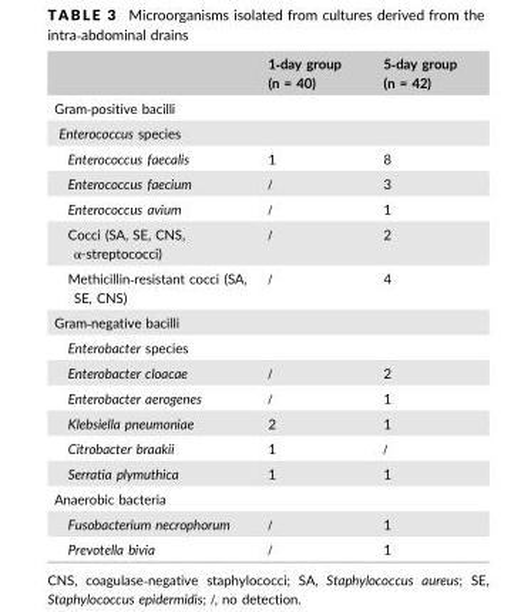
<table><thead><tr><td></td><td>1‐day group (n = 40)</td><td>5‐day group (n = 42)</td></tr></thead><tbody><tr><td colspan="3">Gram‐positive bacilli</td></tr><tr><td colspan="3">Enterococcus species</td></tr><tr><td>Enterococcus faecalis</td><td>1</td><td>8</td></tr><tr><td>Enterococcus faecium</td><td>/</td><td>3</td></tr><tr><td>Enterococcus avium</td><td>/</td><td>1</td></tr><tr><td>Cocci (SA, SE, CNS, α-streptococci)</td><td>/</td><td>2</td></tr><tr><td>Methicillin‐resistant cocci (SA, SE, CNS)</td><td>/</td><td>4</td></tr><tr><td colspan="3">Gram‐negative bacilli</td></tr><tr><td colspan="3">Enterobacter species</td></tr><tr><td>Enterobacter cloacae</td><td>/</td><td>2</td></tr><tr><td>Enterobacter aerogenes</td><td>/</td><td>1</td></tr><tr><td>Klebsiella pneumoniae</td><td>2</td><td>1</td></tr><tr><td>Citrobacter braakii</td><td>1</td><td>/</td></tr><tr><td>Serratia plymuthica</td><td>1</td><td>1</td></tr><tr><td colspan="3">Anaerobic bacteria</td></tr><tr><td>Fusobacterium necrophorum</td><td>/</td><td>1</td></tr><tr><td>Prevotella bivia</td><td>/</td><td>1</td></tr></tbody></table>